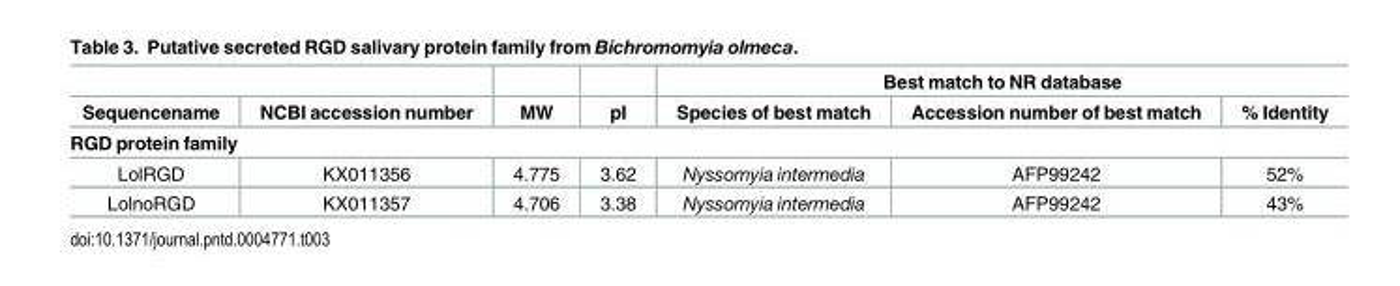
<table><thead><tr><td rowspan="2">Sequencename</td><td rowspan="2">NCBI accession number</td><td rowspan="2">MW</td><td rowspan="2">pI</td><td colspan="3">Best match to NR database</td></tr><tr><td>Species of best match</td><td>Accession number of best match</td><td>% Identity</td></tr><tr><td colspan="7">RGD protein family</td></tr></thead><tbody><tr><td>LolRGD</td><td>KX011356</td><td>4.775</td><td>3.62</td><td>Nyssomyia intermedia</td><td>AFP99242</td><td>52%</td></tr><tr><td>LolnoRGD</td><td>KX011357</td><td>4.706</td><td>3.38</td><td>Nyssomyia intermedia</td><td>AFP99242</td><td>43%</td></tr></tbody></table>